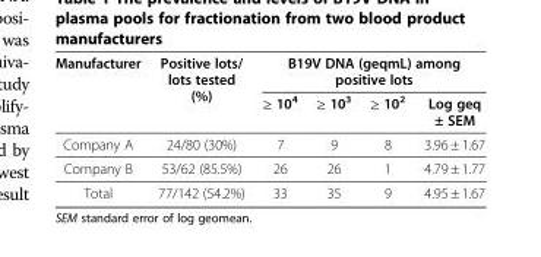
<table><thead><tr><td rowspan="2">Manufacturer</td><td rowspan="2">Positive lots/ lots tested (%)</td><td colspan="4">B19V DNA (geqmL) among positive lots</td></tr><tr><td>≥ 10<sup>4</sup></td><td>≥ 10<sup>3</sup></td><td>≥ 10<sup>2</sup></td><td>Log geq ± SEM</td></tr></thead><tbody><tr><td>Company A</td><td>24/80 (30%)</td><td>7</td><td>9</td><td>8</td><td>3.96 ± 1.67</td></tr><tr><td>Company B</td><td>53/62 (85.5%)</td><td>26</td><td>26</td><td>1</td><td>4.79 ± 1.77</td></tr><tr><td>Total</td><td>77/142 (54.2%)</td><td>33</td><td>35</td><td>9</td><td>4.95 ± 1.67</td></tr></tbody></table>